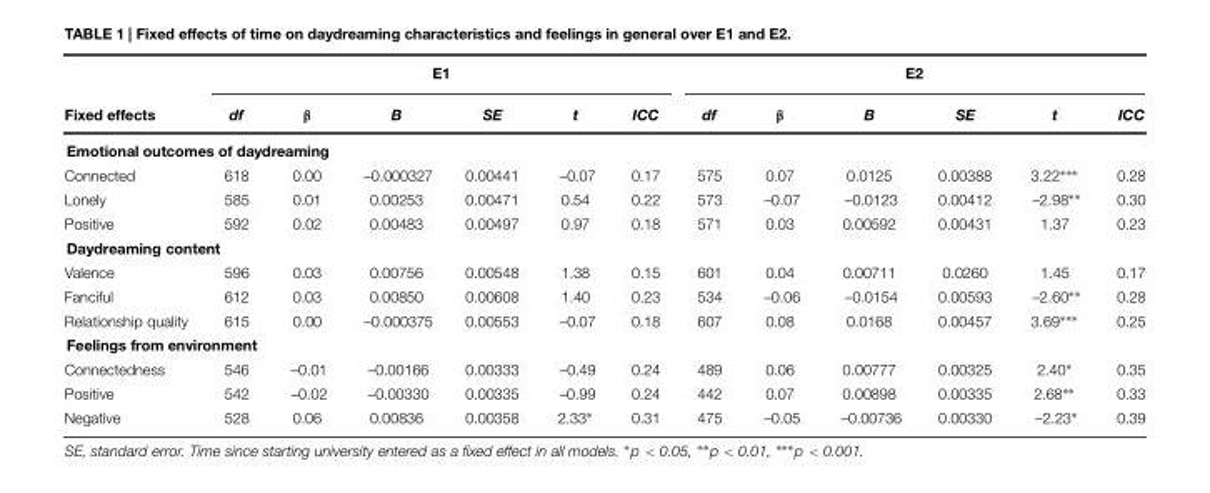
<table><thead><tr><td rowspan="2">Fixed effects</td><td colspan="6">E1</td><td colspan="6">E2</td></tr><tr><td>df</td><td>β</td><td>B</td><td>SE</td><td>t</td><td>ICC</td><td>df</td><td>β</td><td>B</td><td>SE</td><td>t</td><td>ICC</td></tr></thead><tbody><tr><td colspan="13">Emotional outcomes of daydreaming</td></tr><tr><td>Connected</td><td>618</td><td>0.00</td><td>–0.000327</td><td>0.00441</td><td>–0.07</td><td>0.17</td><td>575</td><td>0.07</td><td>0.0125</td><td>0.00388</td><td>3.22∗∗∗</td><td>0.28</td></tr><tr><td>Lonely</td><td>585</td><td>0.01</td><td>0.00253</td><td>0.00471</td><td>0.54</td><td>0.22</td><td>573</td><td>–0.07</td><td>–0.0123</td><td>0.00412</td><td>–2.98∗∗</td><td>0.30</td></tr><tr><td>Positive</td><td>592</td><td>0.02</td><td>0.00483</td><td>0.00497</td><td>0.97</td><td>0.18</td><td>571</td><td>0.03</td><td>0.00592</td><td>0.00431</td><td>1.37</td><td>0.23</td></tr><tr><td colspan="13">Daydreaming content</td></tr><tr><td>Valence</td><td>596</td><td>0.03</td><td>0.00756</td><td>0.00548</td><td>1.38</td><td>0.15</td><td>601</td><td>0.04</td><td>0.00711</td><td>0.0260</td><td>1.45</td><td>0.17</td></tr><tr><td>Fanciful</td><td>612</td><td>0.03</td><td>0.00850</td><td>0.00608</td><td>1.40</td><td>0.23</td><td>534</td><td>–0.06</td><td>–0.0154</td><td>0.00593</td><td>–2.60∗∗</td><td>0.28</td></tr><tr><td>Relationship quality</td><td>615</td><td>0.00</td><td>–0.000375</td><td>0.00553</td><td>–0.07</td><td>0.18</td><td>607</td><td>0.08</td><td>0.0168</td><td>0.00457</td><td>3.69∗∗∗</td><td>0.25</td></tr><tr><td colspan="13">Feelings from environment</td></tr><tr><td>Connectedness</td><td>546</td><td>–0.01</td><td>–0.00166</td><td>0.00333</td><td>–0.49</td><td>0.24</td><td>489</td><td>0.06</td><td>0.00777</td><td>0.00325</td><td>2.40∗</td><td>0.35</td></tr><tr><td>Positive</td><td>542</td><td>–0.02</td><td>–0.00330</td><td>0.00335</td><td>–0.99</td><td>0.24</td><td>442</td><td>0.07</td><td>0.00898</td><td>0.00335</td><td>2.68∗∗</td><td>0.33</td></tr><tr><td>Negative</td><td>528</td><td>0.06</td><td>0.00836</td><td>0.00358</td><td>2.33∗</td><td>0.31</td><td>475</td><td>–0.05</td><td>–0.00736</td><td>0.00330</td><td>–2.23∗</td><td>0.39</td></tr></tbody></table>